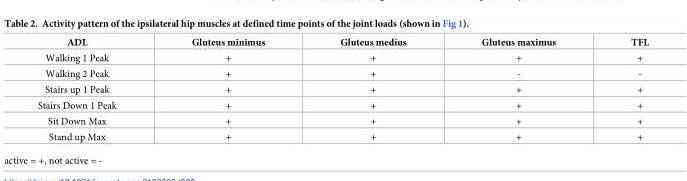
<table><thead><tr><td>ADL</td><td>Gluteus minimus</td><td>Gluteus medius</td><td>Gluteus maximus</td><td>TFL</td></tr></thead><tbody><tr><td>Walking 1 Peak</td><td>+</td><td>+</td><td>+</td><td>+</td></tr><tr><td>Walking 2 Peak</td><td>+</td><td>+</td><td>-</td><td>-</td></tr><tr><td>Stairs up 1 Peak</td><td>+</td><td>+</td><td>+</td><td>+</td></tr><tr><td>Stairs Down 1 Peak</td><td>+</td><td>+</td><td>+</td><td>+</td></tr><tr><td>Sit Down Max</td><td>+</td><td>+</td><td>+</td><td>+</td></tr><tr><td>Stand up Max</td><td>+</td><td>+</td><td>+</td><td>+</td></tr></tbody></table>